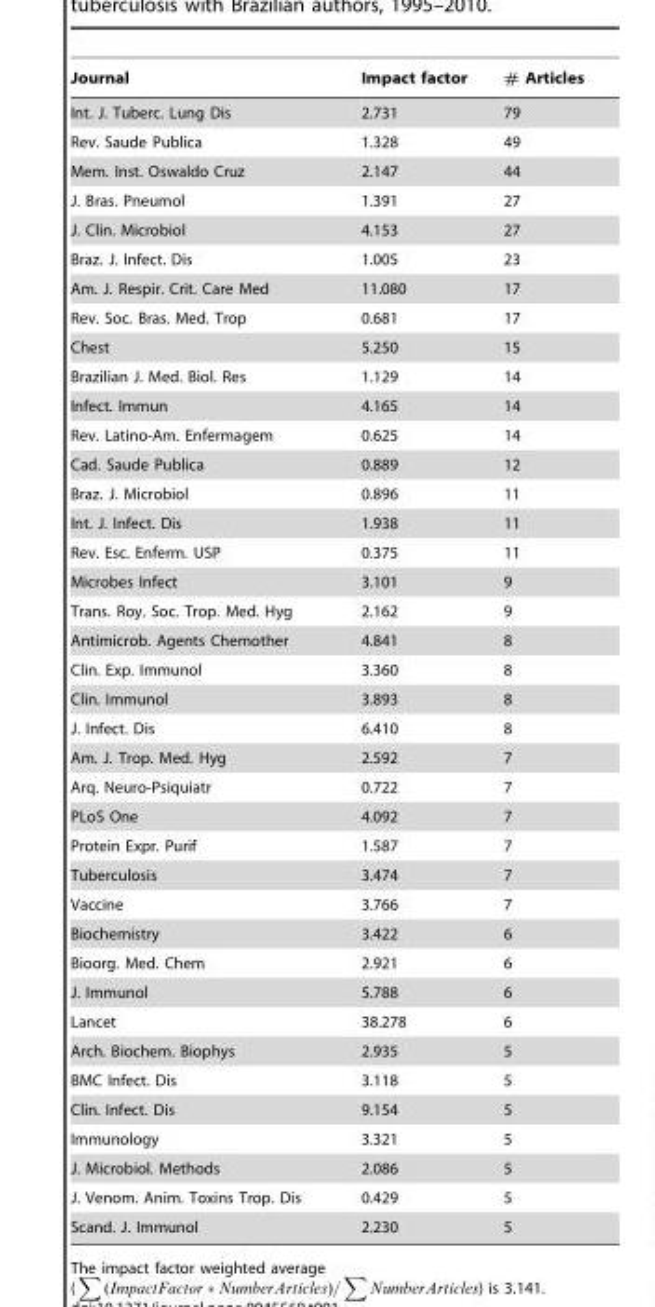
<table><thead><tr><td>Journal</td><td>Impact factor</td><td># Articles</td></tr></thead><tbody><tr><td>Int. J. Tuberc. Lung Dis</td><td>2.731</td><td>79</td></tr><tr><td>Rev. Saude Publica</td><td>1.328</td><td>49</td></tr><tr><td>Mem. Inst. Oswaldo Cruz</td><td>2.147</td><td>44</td></tr><tr><td>J. Bras. Pneumol</td><td>1.391</td><td>27</td></tr><tr><td>J. Clin. Microbiol</td><td>4.153</td><td>27</td></tr><tr><td>Braz. J. Infect. Dis</td><td>1.005</td><td>23</td></tr><tr><td>Am. J. Respir. Crit. Care Med</td><td>11.080</td><td>17</td></tr><tr><td>Rev. Soc. Bras. Med. Trop</td><td>0.681</td><td>17</td></tr><tr><td>Chest</td><td>5.250</td><td>15</td></tr><tr><td>Brazilian J. Med. Biol. Res</td><td>1.129</td><td>14</td></tr><tr><td>Infect. Immun</td><td>4.165</td><td>14</td></tr><tr><td>Rev. Latino-Am. Enfermagem</td><td>0.625</td><td>14</td></tr><tr><td>Cad. Saude Publica</td><td>0.889</td><td>12</td></tr><tr><td>Braz. J. Microbiol</td><td>0.896</td><td>11</td></tr><tr><td>Int. J. Infect. Dis</td><td>1.938</td><td>11</td></tr><tr><td>Rev. Esc. Enferm. USP</td><td>0.375</td><td>11</td></tr><tr><td>Microbes Infect</td><td>3.101</td><td>9</td></tr><tr><td>Trans. Roy. Soc. Trop. Med. Hyg</td><td>2.162</td><td>9</td></tr><tr><td>Antimicrob. Agents Chemother</td><td>4.841</td><td>8</td></tr><tr><td>Clin. Exp. Immunol</td><td>3.360</td><td>8</td></tr><tr><td>Clin. Immunol</td><td>3.893</td><td>8</td></tr><tr><td>J. Infect. Dis</td><td>6.410</td><td>8</td></tr><tr><td>Am. J. Trop. Med. Hyg</td><td>2.592</td><td>7</td></tr><tr><td>Arq. Neuro-Psiquiatr</td><td>0.722</td><td>7</td></tr><tr><td>PLoS One</td><td>4.092</td><td>7</td></tr><tr><td>Protein Expr. Purif</td><td>1.587</td><td>7</td></tr><tr><td>Tuberculosis</td><td>3.474</td><td>7</td></tr><tr><td>Vaccine</td><td>3.766</td><td>7</td></tr><tr><td>Biochemistry</td><td>3.422</td><td>6</td></tr><tr><td>Bioorg. Med. Chem</td><td>2.921</td><td>6</td></tr><tr><td>J. Immunol</td><td>5.788</td><td>6</td></tr><tr><td>Lancet</td><td>38.278</td><td>6</td></tr><tr><td>Arch. Biochem. Biophys</td><td>2.935</td><td>5</td></tr><tr><td>BMC Infect. Dis</td><td>3.118</td><td>5</td></tr><tr><td>Clin. Infect. Dis</td><td>9.154</td><td>5</td></tr><tr><td>Immunology</td><td>3.321</td><td>5</td></tr><tr><td>J. Microbiol. Methods</td><td>2.086</td><td>5</td></tr><tr><td>J. Venom. Anim. Toxins Trop. Dis</td><td>0.429</td><td>5</td></tr><tr><td>Scand. J. Immunol</td><td>2.230</td><td>5</td></tr></tbody></table>